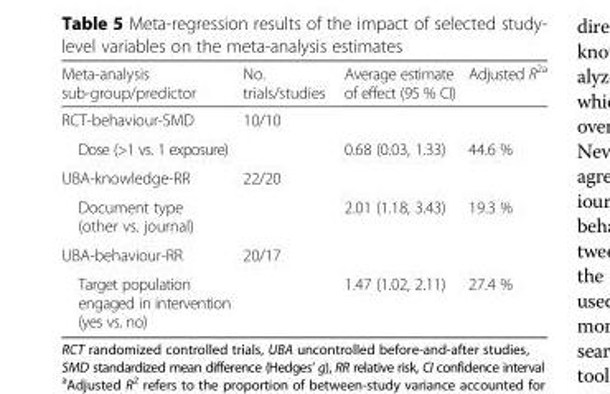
<table><thead><tr><td>Meta-analysis sub-group/predictor</td><td>No. trials/studies</td><td>Average estimate of effect (95 % CI)</td><td>Adjusted R<sup>2a</sup></td></tr></thead><tbody><tr><td>RCT-behaviour-SMD</td><td>10/10</td><td></td><td></td></tr><tr><td>Dose (&gt;1 vs. 1 exposure)</td><td></td><td>0.68 (0.03, 1.33)</td><td>44.6 %</td></tr><tr><td>UBA-knowledge-RR</td><td>22/20</td><td></td><td></td></tr><tr><td>Document type (other vs. journal)</td><td></td><td>2.01 (1.18, 3.43)</td><td>19.3 %</td></tr><tr><td>UBA-behaviour-RR</td><td>20/17</td><td></td><td></td></tr><tr><td>Target population engaged in intervention (yes vs. no)</td><td></td><td>1.47 (1.02, 2.11)</td><td>27.4 %</td></tr></tbody></table>